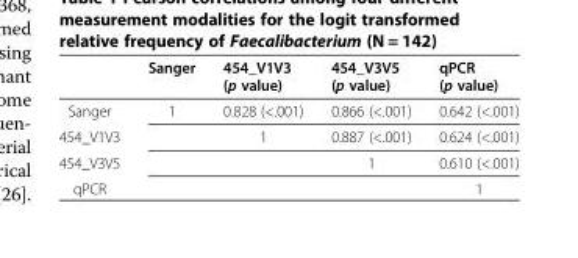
<table><thead><tr><td></td><td>Sanger</td><td>454_V1V3 (p value)</td><td>454_V3V5 (p value)</td><td>qPCR (p value)</td></tr></thead><tbody><tr><td>Sanger</td><td>1</td><td>0.828 (&lt;.001)</td><td>0.866 (&lt;.001)</td><td>0.642 (&lt;.001)</td></tr><tr><td>454_V1V3</td><td></td><td>1</td><td>0.887 (&lt;.001)</td><td>0.624 (&lt;.001)</td></tr><tr><td>454_V3V5</td><td></td><td></td><td>1</td><td>0.610 (&lt;.001)</td></tr><tr><td>qPCR</td><td></td><td></td><td></td><td>1</td></tr></tbody></table>